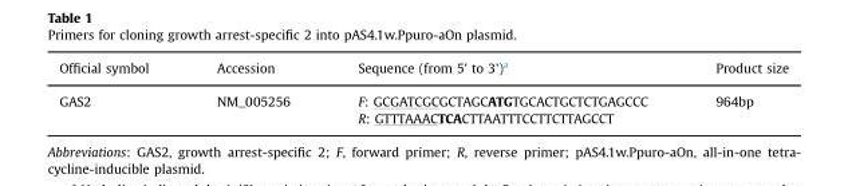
<table><thead><tr><td>Official symbol</td><td>Accession</td><td>Sequence (from 5&#x27; to 3&#x27;)a</td><td>Product size</td></tr></thead><tbody><tr><td rowspan="2">GAS2</td><td rowspan="2">NM_005256</td><td>F: GCGATCGCGCTAGCATGTGCACTGCTCTGAGCCC</td><td rowspan="2">964bp</td></tr><tr><td>R: GTTTAAACTCACTTAATTTCCTTCTTAGCCT</td></tr></tbody></table>